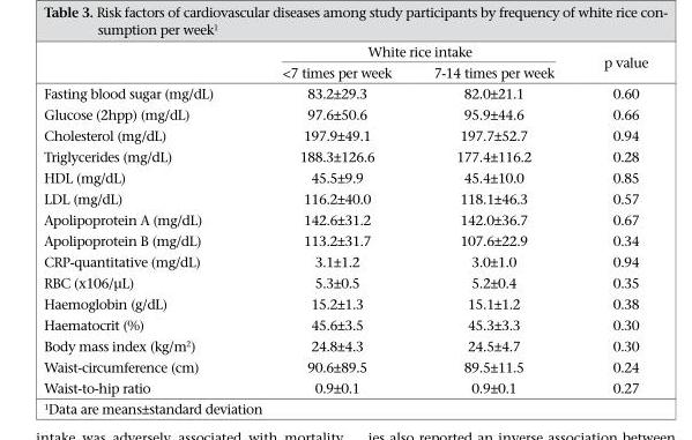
<table><thead><tr><td rowspan="2"></td><td colspan="2">White rice intake</td><td rowspan="2">p value</td></tr><tr><td>&lt;7 times per week</td><td>7-14 times per week</td></tr></thead><tbody><tr><td>Fasting blood sugar (mg/dL)</td><td>83.2±29.3</td><td>82.0±21.1</td><td>0.60</td></tr><tr><td>Glucose (2hpp) (mg/dL)</td><td>97.6±50.6</td><td>95.9±44.6</td><td>0.66</td></tr><tr><td>Cholesterol (mg/dL)</td><td>197.9±49.1</td><td>197.7±52.7</td><td>0.94</td></tr><tr><td>Triglycerides (mg/dL)</td><td>188.3±126.6</td><td>177.4±116.2</td><td>0.28</td></tr><tr><td>HDL (mg/dL)</td><td>45.5±9.9</td><td>45.4±10.0</td><td>0.85</td></tr><tr><td>LDL (mg/dL)</td><td>116.2±40.0</td><td>118.1±46.3</td><td>0.57</td></tr><tr><td>Apolipoprotein A (mg/dL)</td><td>142.6±31.2</td><td>142.0±36.7</td><td>0.67</td></tr><tr><td>Apolipoprotein B (mg/dL)</td><td>113.2±31.7</td><td>107.6±22.9</td><td>0.34</td></tr><tr><td>CRP-quantitative (mg/dL)</td><td>3.1±1.2</td><td>3.0±1.0</td><td>0.94</td></tr><tr><td>RBC (x106/µL)</td><td>5.3±0.5</td><td>5.2±0.4</td><td>0.35</td></tr><tr><td>Haemoglobin (g/dL)</td><td>15.2±1.3</td><td>15.1±1.2</td><td>0.38</td></tr><tr><td>Haematocrit (%)</td><td>45.6±3.5</td><td>45.3±3.3</td><td>0.30</td></tr><tr><td>Body mass index (kg/m<sup>2</sup>)</td><td>24.8±4.3</td><td>24.5±4.7</td><td>0.30</td></tr><tr><td>Waist-circumference (cm)</td><td>90.6±89.5</td><td>89.5±11.5</td><td>0.24</td></tr><tr><td>Waist-to-hip ratio</td><td>0.9±0.1</td><td>0.9±0.1</td><td>0.27</td></tr></tbody></table>